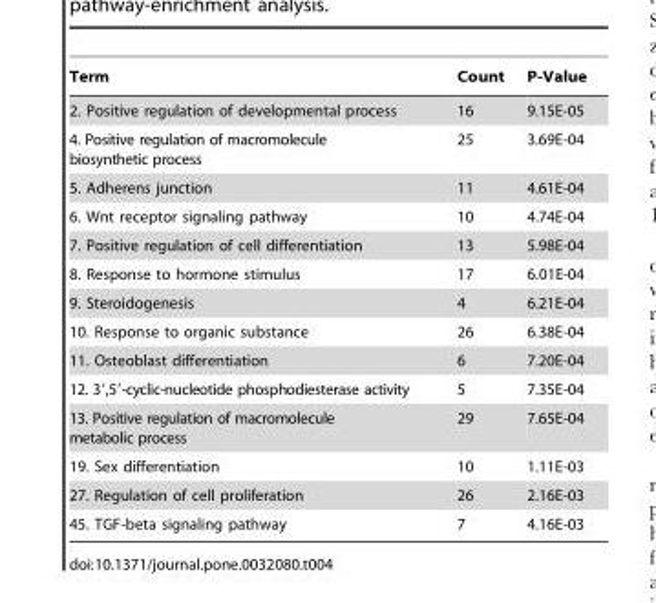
<table><thead><tr><td>Term</td><td>Count</td><td>P-Value</td></tr></thead><tbody><tr><td>2. Positive regulation of developmental process</td><td>16</td><td>9.15E-05</td></tr><tr><td>4. Positive regulation of macromolecule biosynthetic process</td><td>25</td><td>3.69E-04</td></tr><tr><td>5. Adherens junction</td><td>11</td><td>4.61E-04</td></tr><tr><td>6. Wnt receptor signaling pathway</td><td>10</td><td>4.74E-04</td></tr><tr><td>7. Positive regulation of cell differentiation</td><td>13</td><td>5.98E-04</td></tr><tr><td>8. Response to hormone stimulus</td><td>17</td><td>6.01E-04</td></tr><tr><td>9. Steroidogenesis</td><td>4</td><td>6.21E-04</td></tr><tr><td>10. Response to organic substance</td><td>26</td><td>6.38E-04</td></tr><tr><td>11. Osteoblast differentiation</td><td>6</td><td>7.20E-04</td></tr><tr><td>12. 3′,5′-cyclic-nucleotide phosphodiesterase activity</td><td>5</td><td>7.35E-04</td></tr><tr><td>13. Positive regulation of macromolecule metabolic process</td><td>29</td><td>7.65E-04</td></tr><tr><td>19. Sex differentiation</td><td>10</td><td>1.11E-03</td></tr><tr><td>27. Regulation of cell proliferation</td><td>26</td><td>2.16E-03</td></tr><tr><td>45. TGF-beta signaling pathway</td><td>7</td><td>4.16E-03</td></tr></tbody></table>